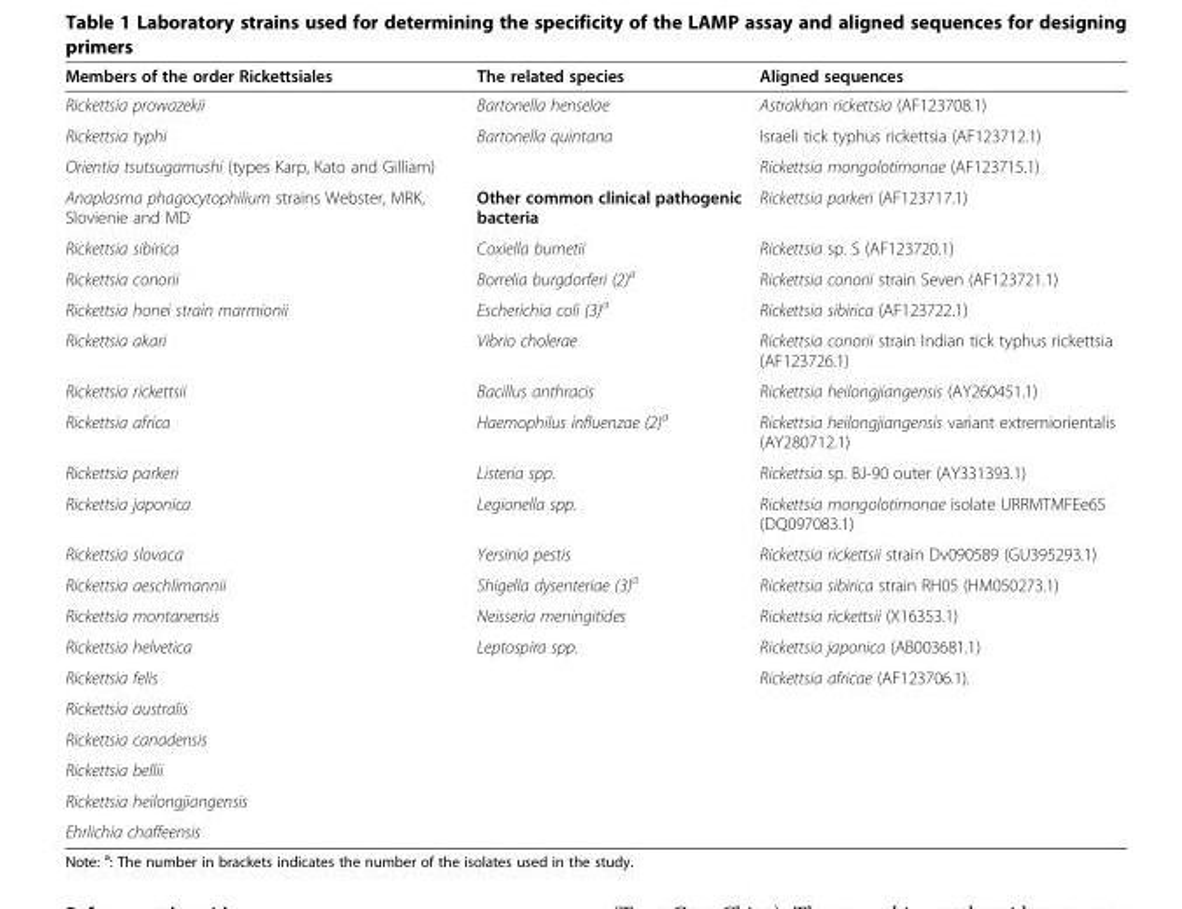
<table><thead><tr><td>Members of the order Rickettsiales</td><td>The related species</td><td>Aligned sequences</td></tr></thead><tbody><tr><td>Rickettsia prowazekii</td><td>Bartonella henselae</td><td>Astrakhan rickettsia (AF123708.1)</td></tr><tr><td>Rickettsia typhi</td><td>Bartonella quintana</td><td>Israeli tick typhus rickettsia (AF123712.1)</td></tr><tr><td>Orientia tsutsugamushi (types Karp, Kato and Gilliam)</td><td></td><td>Rickettsia mongolotimonae (AF123715.1)</td></tr><tr><td>Anaplasma phagocytophilium strains Webster, MRK, Slovienie and MD</td><td>Other common clinical pathogenic bacteria</td><td>Rickettsia parkeri (AF123717.1)</td></tr><tr><td>Rickettsia sibirica</td><td>Coxiella burnetii</td><td>Rickettsia sp. S (AF123720.1)</td></tr><tr><td>Rickettsia conorii</td><td>Borrelia burgdorferi (2)<sup>a</sup></td><td>Rickettsia conorii strain Seven (AF123721.1)</td></tr><tr><td>Rickettsia honei strain marmionii</td><td>Escherichia coli (3)<sup>a</sup></td><td>Rickettsia sibirica (AF123722.1)</td></tr><tr><td>Rickettsia akari</td><td>Vibrio cholerae</td><td>Rickettsia conorii strain Indian tick typhus rickettsia (AF123726.1)</td></tr><tr><td>Rickettsia rickettsii</td><td>Bacillus anthracis</td><td>Rickettsia heilongjiangensis (AY260451.1)</td></tr><tr><td>Rickettsia africa</td><td>Haemophilus influenzae (2)<sup>a</sup></td><td>Rickettsia heilongjiangensis variant extremiorientalis (AY280712.1)</td></tr><tr><td>Rickettsia parkeri</td><td>Listeria spp.</td><td>Rickettsia sp. BJ-90 outer (AY331393.1)</td></tr><tr><td>Rickettsia japonica</td><td>Legionella spp.</td><td>Rickettsia mongolotimonae isolate URRMTMFEe65 (DQ097083.1)</td></tr><tr><td>Rickettsia slovaca</td><td>Yersinia pestis</td><td>Rickettsia rickettsii strain Dv090589 (GU395293.1)</td></tr><tr><td>Rickettsia aeschlimannii</td><td>Shigella dysenteriae (3)<sup>a</sup></td><td>Rickettsia sibirica strain RH05 (HM050273.1)</td></tr><tr><td>Rickettsia montanensis</td><td>Neisseria meningitides</td><td>Rickettsia rickettsii (X16353.1)</td></tr><tr><td>Rickettsia helvetica</td><td>Leptospira spp.</td><td>Rickettsia japonica (AB003681.1)</td></tr><tr><td>Rickettsia felis</td><td></td><td>Rickettsia africae (AF123706.1).</td></tr><tr><td colspan="3">Rickettsia australis</td></tr><tr><td colspan="3">Rickettsia canadensis</td></tr><tr><td colspan="3">Rickettsia bellii</td></tr><tr><td colspan="3">Rickettsia heilongjiangensis</td></tr><tr><td>Ehrlichia chaffeensis</td><td></td><td></td></tr></tbody></table>